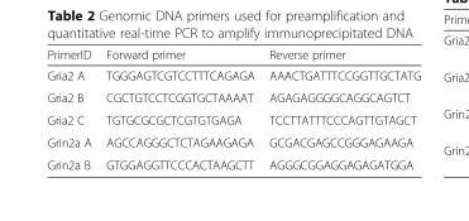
<table><thead><tr><td>PrimerID</td><td>Forward primer</td><td>Reverse primer</td></tr></thead><tbody><tr><td>Gria2 A</td><td>TGGGAGTCGTCCTTTCAGAGA</td><td>AAACTGATTTCCGGTTGCTATG</td></tr><tr><td>Gria2 B</td><td>CGCTGTCCTCGGTGCTAAAAT</td><td>AGAGAGGGGCAGGCAGTCT</td></tr><tr><td>Gria2 C</td><td>TGTGCGCGCTCGTGTGAGA</td><td>TCCTTATTTCCCAGTTGTAGCT</td></tr><tr><td>Grin2a A</td><td>AGCCAGGGCTCTAGAAGAGA</td><td>GCGACGAGCCGGGAGAAGA</td></tr><tr><td>Grin2a B</td><td>GTGGAGGTTCCCACTAAGCTT</td><td>AGGGCGGAGGAGAGATGGA</td></tr></tbody></table>